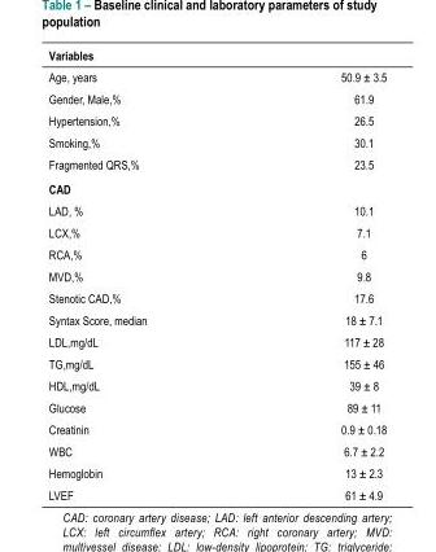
<table><thead><tr><td colspan="2">Variables</td></tr><tr><td>Age, years</td><td>50.9 ± 3.5</td></tr></thead><tbody><tr><td>Gender, Male,%</td><td>61.9</td></tr><tr><td>Hypertension,%</td><td>26.5</td></tr><tr><td>Smoking,%</td><td>30.1</td></tr><tr><td>Fragmented QRS,%</td><td>23.5</td></tr><tr><td colspan="2">CAD</td></tr><tr><td>LAD, %</td><td>10.1</td></tr><tr><td>LCX,%</td><td>7.1</td></tr><tr><td>RCA,%</td><td>6</td></tr><tr><td>MVD,%</td><td>9.8</td></tr><tr><td>Stenotic CAD,%</td><td>17.6</td></tr><tr><td>Syntax Score, median</td><td>18 ± 7.1</td></tr><tr><td>LDL,mg/dL</td><td>117 ± 28</td></tr><tr><td>TG,mg/dL</td><td>155 ± 46</td></tr><tr><td>HDL,mg/dL</td><td>39 ± 8</td></tr><tr><td>Glucose</td><td>89 ± 11</td></tr><tr><td>Creatinin</td><td>0.9 ± 0.18</td></tr><tr><td>WBC</td><td>6.7 ± 2.2</td></tr><tr><td>Hemoglobin</td><td>13 ± 2.3</td></tr><tr><td>LVEF</td><td>61 ± 4.9</td></tr></tbody></table>